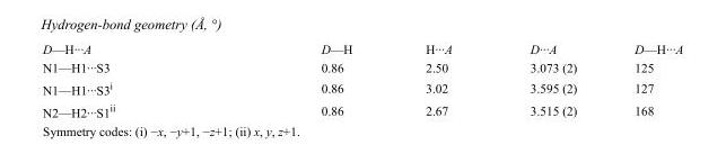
<table><tbody><tr><td>D—H···A</td><td>D—H</td><td>H···A</td><td>D···A</td><td>D—H···A</td></tr><tr><td>N1—H1···S3</td><td>0.86</td><td>2.50</td><td>3.073 (2)</td><td>125</td></tr><tr><td>N1—H1···S3<sup>i</sup></td><td>0.86</td><td>3.02</td><td>3.595 (2)</td><td>127</td></tr><tr><td>N2—H2···S1<sup>ii</sup></td><td>0.86</td><td>2.67</td><td>3.515 (2)</td><td>168</td></tr></tbody></table>